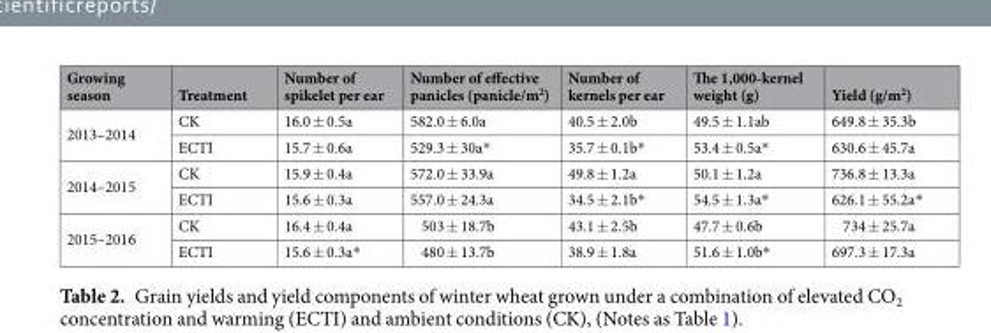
<table><thead><tr><td>Growing season</td><td>Treatment</td><td>Number of spikelet per ear</td><td>Number of effective panicles (panicle/m<sup>2</sup>)</td><td>Number of kernels per ear</td><td>The 1,000-kernel weight (g)</td><td>Yield (g/m<sup>2</sup>)</td></tr></thead><tbody><tr><td rowspan="2">2013–2014</td><td>CK</td><td>16.0 ± 0.5a</td><td>582.0 ± 6.0a</td><td>40.5 ± 2.0b</td><td>49.5 ± 1.1ab</td><td>649.8 ± 35.3b</td></tr><tr><td>ECTI</td><td>15.7 ± 0.6a</td><td>529.3 ± 30a*</td><td>35.7 ± 0.1b*</td><td>53.4 ± 0.5a*</td><td>630.6 ± 45.7a</td></tr><tr><td rowspan="2">2014–2015</td><td>CK</td><td>15.9 ± 0.4a</td><td>572.0 ± 33.9a</td><td>49.8 ± 1.2a</td><td>50.1 ± 1.2a</td><td>736.8 ± 13.3a</td></tr><tr><td>ECTI</td><td>15.6 ± 0.3a</td><td>557.0 ± 24.3a</td><td>34.5 ± 2.1b*</td><td>54.5 ± 1.3a*</td><td>626.1 ± 55.2a*</td></tr><tr><td rowspan="2">2015–2016</td><td>CK</td><td>16.4 ± 0.4a</td><td>503 ± 18.7b</td><td>43.1 ± 2.5b</td><td>47.7 ± 0.6b</td><td>734 ± 25.7a</td></tr><tr><td>ECTI</td><td>15.6 ± 0.3a*</td><td>480 ± 13.7b</td><td>38.9 ± 1.8a</td><td>51.6 ± 1.0b*</td><td>697.3 ± 17.3a</td></tr></tbody></table>